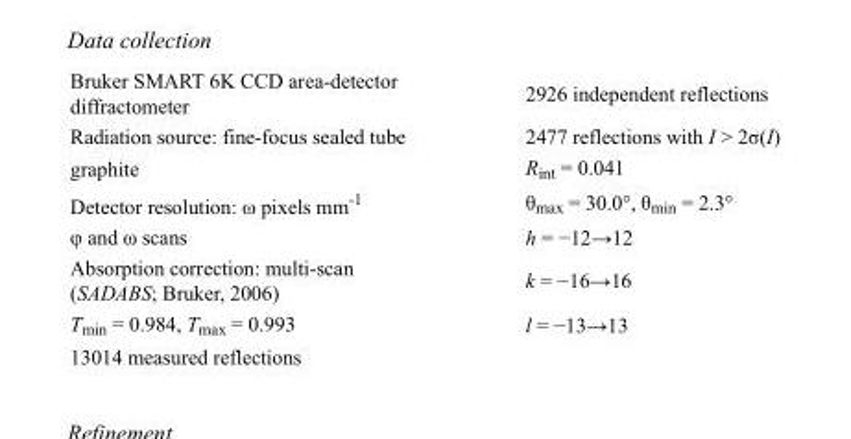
<table><tbody><tr><td>Bruker SMART 6K CCD area-detector diffractometer</td><td>2926 independent reflections</td></tr><tr><td>Radiation source: fine-focus sealed tube</td><td>2477 reflections with I &gt; 2σ(I)</td></tr><tr><td>graphite</td><td>R<sub>int</sub> = 0.041</td></tr><tr><td>Detector resolution: ω pixels mm<sup>-1</sup></td><td>θ<sub>max</sub> = 30.0°, θ<sub>min</sub> = 2.3°</td></tr><tr><td>φ and ω scans</td><td>h = −12→12</td></tr><tr><td>Absorption correction: multi-scan (SADABS; Bruker, 2006)</td><td>k = −16→16</td></tr><tr><td>T<sub>min</sub> = 0.984, T<sub>max</sub> = 0.993</td><td>l = −13→13</td></tr><tr><td>13014 measured reflections</td><td></td></tr></tbody></table>